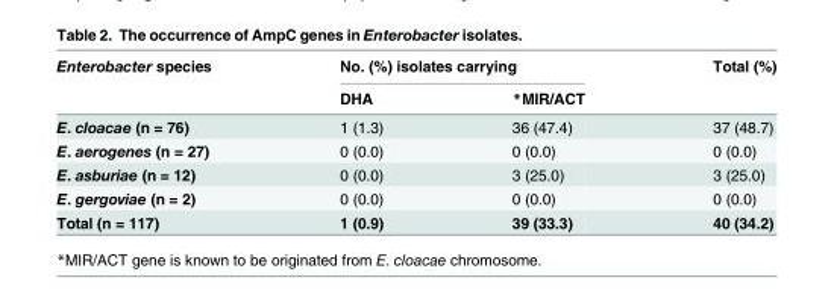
<table><thead><tr><td rowspan="2">Enterobacter species</td><td colspan="2">No. (%) isolates carrying</td><td rowspan="2">Total (%)</td></tr><tr><td>DHA</td><td>*MIR/ACT</td></tr></thead><tbody><tr><td>E. cloacae (n = 76)</td><td>1 (1.3)</td><td>36 (47.4)</td><td>37 (48.7)</td></tr><tr><td>E. aerogenes (n = 27)</td><td>0 (0.0)</td><td>0 (0.0)</td><td>0 (0.0)</td></tr><tr><td>E. asburiae (n = 12)</td><td>0 (0.0)</td><td>3 (25.0)</td><td>3 (25.0)</td></tr><tr><td>E. gergoviae (n = 2)</td><td>0 (0.0)</td><td>0 (0.0)</td><td>0 (0.0)</td></tr><tr><td>Total (n = 117)</td><td>1 (0.9)</td><td>39 (33.3)</td><td>40 (34.2)</td></tr></tbody></table>